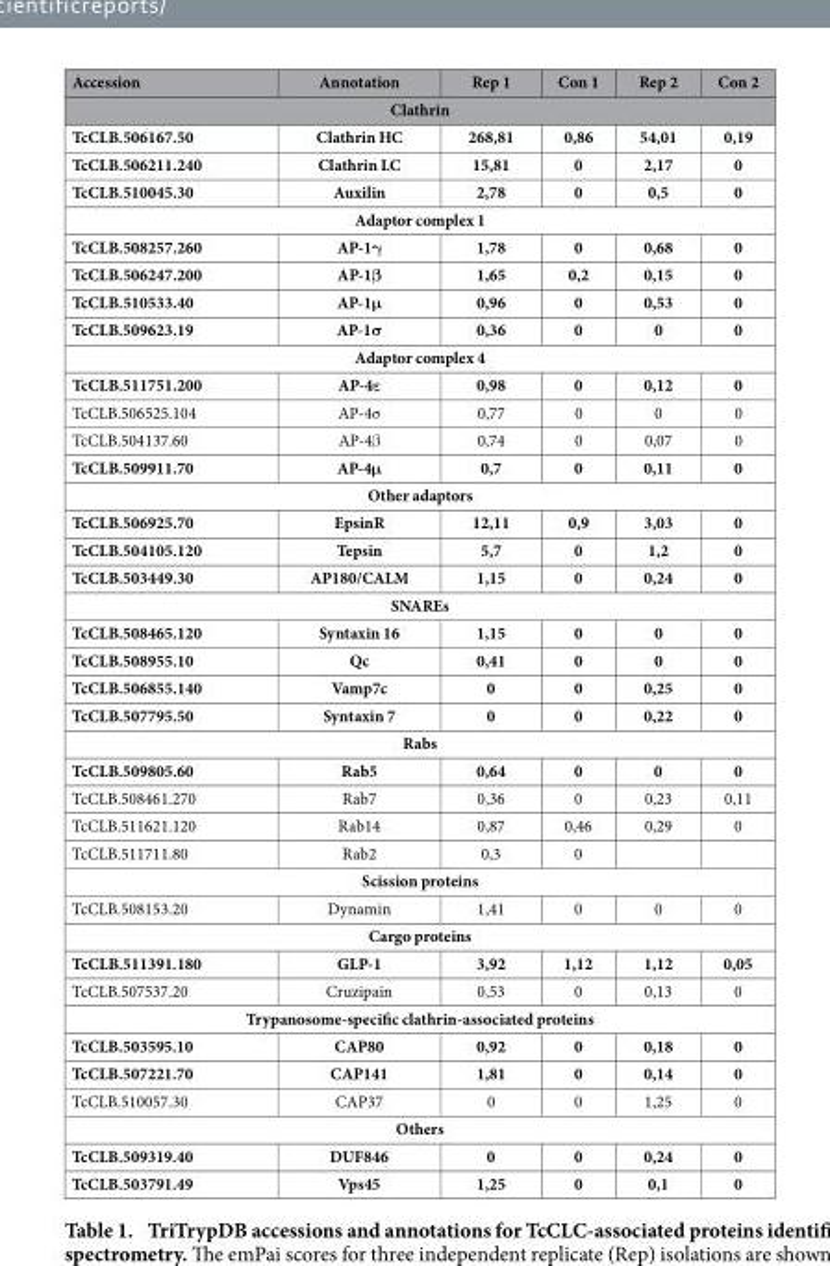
<table><thead><tr><td>Accession</td><td>Annotation</td><td>Rep 1</td><td>Con 1</td><td>Rep 2</td><td>Con 2</td></tr><tr><td colspan="6">Clathrin</td></tr></thead><tbody><tr><td>TcCLB.506167.50</td><td>Clathrin HC</td><td>268,81</td><td>0,86</td><td>54,01</td><td>0,19</td></tr><tr><td>TcCLB.506211.240</td><td>Clathrin LC</td><td>15,81</td><td>0</td><td>2,17</td><td>0</td></tr><tr><td>TcCLB.510045.30</td><td>Auxilin</td><td>2,78</td><td>0</td><td>0,5</td><td>0</td></tr><tr><td colspan="6">Adaptor complex 1</td></tr><tr><td>TcCLB.508257.260</td><td>AP-1γ</td><td>1,78</td><td>0</td><td>0,68</td><td>0</td></tr><tr><td>TcCLB.506247.200</td><td>AP-1β</td><td>1,65</td><td>0,2</td><td>0,15</td><td>0</td></tr><tr><td>TcCLB.510533.40</td><td>AP-1μ</td><td>0,96</td><td>0</td><td>0,53</td><td>0</td></tr><tr><td>TcCLB.509623.19</td><td>AP-1σ</td><td>0,36</td><td>0</td><td>0</td><td>0</td></tr><tr><td colspan="6">Adaptor complex 4</td></tr><tr><td>TcCLB.511751.200</td><td>AP-4ε</td><td>0,98</td><td>0</td><td>0,12</td><td>0</td></tr><tr><td>TcCLB.506525.104</td><td>AP-4σ</td><td>0,77</td><td>0</td><td>0</td><td>0</td></tr><tr><td>TcCLB.504137.60</td><td>AP-4β</td><td>0,74</td><td>0</td><td>0,07</td><td>0</td></tr><tr><td>TcCLB.509911.70</td><td>AP-4μ</td><td>0,7</td><td>0</td><td>0,11</td><td>0</td></tr><tr><td colspan="6">Other adaptors</td></tr><tr><td>TcCLB.506925.70</td><td>EpsinR</td><td>12,11</td><td>0,9</td><td>3,03</td><td>0</td></tr><tr><td>TcCLB.504105.120</td><td>Tepsin</td><td>5,7</td><td>0</td><td>1,2</td><td>0</td></tr><tr><td>TcCLB.503449.30</td><td>AP180/CALM</td><td>1,15</td><td>0</td><td>0,24</td><td>0</td></tr><tr><td colspan="6">SNAREs</td></tr><tr><td>TcCLB.508465.120</td><td>Syntaxin 16</td><td>1,15</td><td>0</td><td>0</td><td>0</td></tr><tr><td>TcCLB.508955.10</td><td>Qc</td><td>0,41</td><td>0</td><td>0</td><td>0</td></tr><tr><td>TcCLB.506855.140</td><td>Vamp7c</td><td>0</td><td>0</td><td>0,25</td><td>0</td></tr><tr><td>TcCLB.507795.50</td><td>Syntaxin 7</td><td>0</td><td>0</td><td>0,22</td><td>0</td></tr><tr><td colspan="6">Rabs</td></tr><tr><td>TcCLB.509805.60</td><td>Rab5</td><td>0,64</td><td>0</td><td>0</td><td>0</td></tr><tr><td>TcCLB.508461.270</td><td>Rab7</td><td>0,36</td><td>0</td><td>0,23</td><td>0,11</td></tr><tr><td>TcCLB.511621.120</td><td>Rab14</td><td>0,87</td><td>0,46</td><td>0,29</td><td>0</td></tr><tr><td>TcCLB.511711.80</td><td>Rab2</td><td>0,3</td><td>0</td><td></td><td></td></tr><tr><td colspan="6">Scission proteins</td></tr><tr><td>TcCLB.508153.20</td><td>Dynamin</td><td>1,41</td><td>0</td><td>0</td><td>0</td></tr><tr><td colspan="6">Cargo proteins</td></tr><tr><td>TcCLB.511391.180</td><td>GLP-1</td><td>3,92</td><td>1,12</td><td>1,12</td><td>0,05</td></tr><tr><td>TcCLB.507537.20</td><td>Cruzipain</td><td>0,53</td><td>0</td><td>0,13</td><td>0</td></tr><tr><td colspan="6">Trypanosome-specific clathrin-associated proteins</td></tr><tr><td>TcCLB.503595.10</td><td>CAP80</td><td>0,92</td><td>0</td><td>0,18</td><td>0</td></tr><tr><td>TcCLB.507221.70</td><td>CAP141</td><td>1,81</td><td>0</td><td>0,14</td><td>0</td></tr><tr><td>TcCLB.510057.30</td><td>CAP37</td><td>0</td><td>0</td><td>1,25</td><td>0</td></tr><tr><td colspan="6">Others</td></tr><tr><td>TcCLB.509319.40</td><td>DUF846</td><td>0</td><td>0</td><td>0,24</td><td>0</td></tr><tr><td>TcCLB.503791.49</td><td>Vps45</td><td>1,25</td><td>0</td><td>0,1</td><td>0</td></tr></tbody></table>